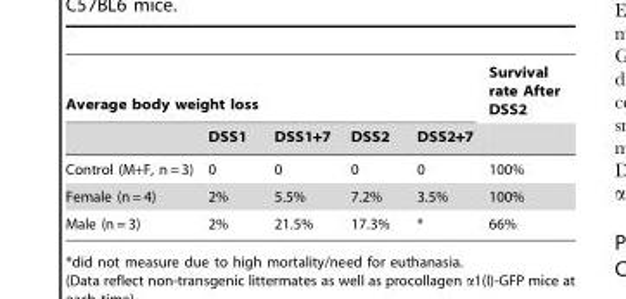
<table><thead><tr><td colspan="5">Average body weight loss</td><td rowspan="2">Survival rate After DSS2</td></tr><tr><td></td><td>DSS1</td><td>DSS1+7</td><td>DSS2</td><td>DSS2+7</td></tr></thead><tbody><tr><td>Control (M+F, n = 3)</td><td>0</td><td>0</td><td>0</td><td>0</td><td>100%</td></tr><tr><td>Female (n = 4)</td><td>2%</td><td>5.5%</td><td>7.2%</td><td>3.5%</td><td>100%</td></tr><tr><td>Male (n = 3)</td><td>2%</td><td>21.5%</td><td>17.3%</td><td>*</td><td>66%</td></tr></tbody></table>